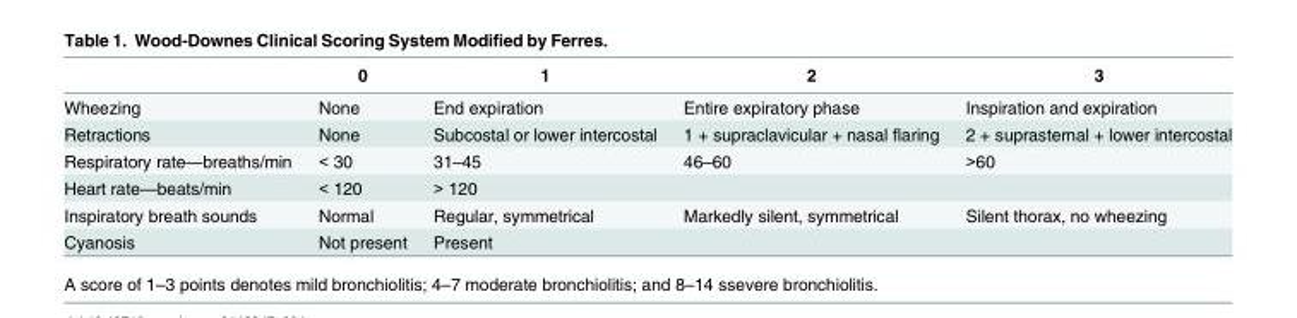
<table><thead><tr><td></td><td>0</td><td>1</td><td>2</td><td>3</td></tr></thead><tbody><tr><td>Wheezing</td><td>None</td><td>End expiration</td><td>Entire expiratory phase</td><td>Inspiration and expiration</td></tr><tr><td>Retractions</td><td>None</td><td>Subcostal or lower intercostal</td><td>1 + supraclavicular + nasal flaring</td><td>2 + suprasternal + lower intercostal</td></tr><tr><td>Respiratory rate—breaths/min</td><td>&lt; 30</td><td>31–45</td><td>46–60</td><td>&gt;60</td></tr><tr><td>Heart rate—beats/min</td><td>&lt; 120</td><td>&gt; 120</td><td></td><td></td></tr><tr><td>Inspiratory breath sounds</td><td>Normal</td><td>Regular, symmetrical</td><td>Markedly silent, symmetrical</td><td>Silent thorax, no wheezing</td></tr><tr><td>Cyanosis</td><td>Not present</td><td>Present</td><td></td><td></td></tr></tbody></table>